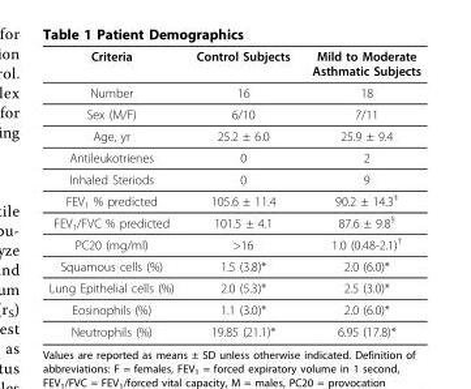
<table><thead><tr><td>Criteria</td><td>Control Subjects</td><td>Mild to Moderate Asthmatic Subjects</td></tr></thead><tbody><tr><td>Number</td><td>16</td><td>18</td></tr><tr><td>Sex (M/F)</td><td>6/10</td><td>7/11</td></tr><tr><td>Age, yr</td><td>25.2 ± 6.0</td><td>25.9 ± 9.4</td></tr><tr><td>Antileukotrienes</td><td>0</td><td>2</td></tr><tr><td>Inhaled Steriods</td><td>0</td><td>9</td></tr><tr><td>FEV<sub>1</sub> % predicted</td><td>105.6 ± 11.4</td><td>90.2 ± 14.3<sup>‡</sup></td></tr><tr><td>FEV<sub>1</sub>/FVC % predicted</td><td>101.5 ± 4.1</td><td>87.6 ± 9.8<sup>§</sup></td></tr><tr><td>PC20 (mg/ml)</td><td>&gt;16</td><td>1.0 (0.48-2.1)<sup>†</sup></td></tr><tr><td>Squamous cells (%)</td><td>1.5 (3.8)*</td><td>2.0 (6.0)*</td></tr><tr><td>Lung Epithelial cells (%)</td><td>2.0 (5.3)*</td><td>2.5 (3.0)*</td></tr><tr><td>Eosinophils (%)</td><td>1.1 (3.0)*</td><td>2.0 (6.0)*</td></tr><tr><td>Neutrophils (%)</td><td>19.85 (21.1)*</td><td>6.95 (17.8)*</td></tr></tbody></table>